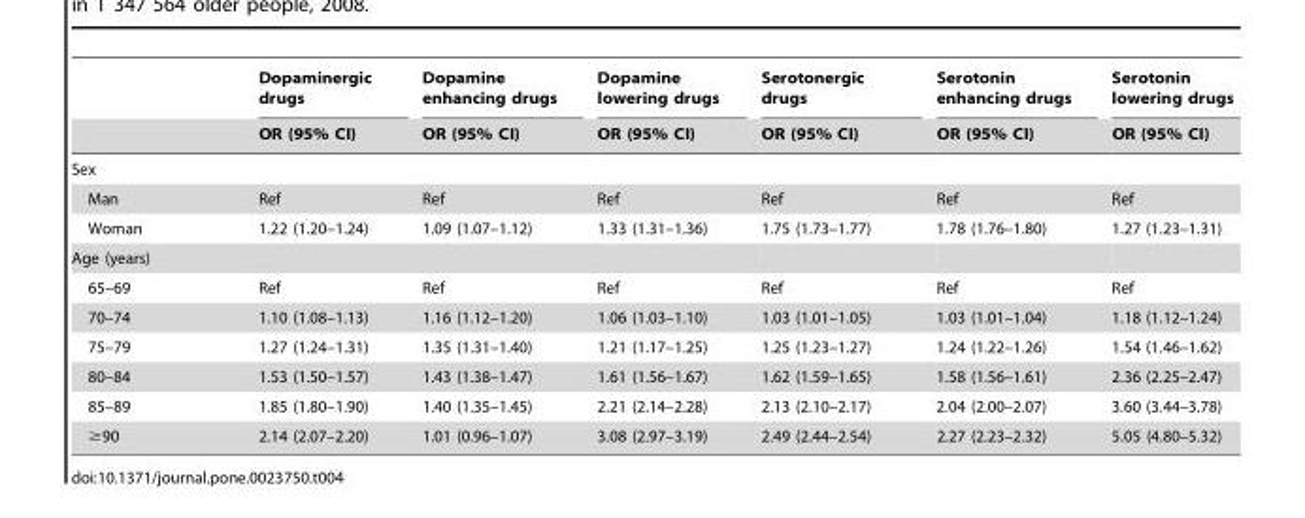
<table><thead><tr><td rowspan="2"></td><td rowspan="2">Dopaminergic drugs OR (95% CI)</td><td rowspan="2">Dopamine enhancing drugs OR (95% CI)</td><td rowspan="2">Dopamine lowering drugs OR (95% CI)</td><td rowspan="2">Serotonergic drugs OR (95% CI)</td><td rowspan="2">Serotonin enhancing drugs OR (95% CI)</td><td rowspan="2">Serotonin lowering drugs OR (95% CI)</td></tr><tr></tr></thead><tbody><tr><td colspan="7">Sex</td></tr><tr><td>Man</td><td>Ref</td><td>Ref</td><td>Ref</td><td>Ref</td><td>Ref</td><td>Ref</td></tr><tr><td>Woman</td><td>1.22 (1.20–1.24)</td><td>1.09 (1.07–1.12)</td><td>1.33 (1.31–1.36)</td><td>1.75 (1.73–1.77)</td><td>1.78 (1.76–1.80)</td><td>1.27 (1.23–1.31)</td></tr><tr><td colspan="7">Age (years)</td></tr><tr><td>65–69</td><td>Ref</td><td>Ref</td><td>Ref</td><td>Ref</td><td>Ref</td><td>Ref</td></tr><tr><td>70–74</td><td>1.10 (1.08–1.13)</td><td>1.16 (1.12–1.20)</td><td>1.06 (1.03–1.10)</td><td>1.03 (1.01–1.05)</td><td>1.03 (1.01–1.04)</td><td>1.18 (1.12–1.24)</td></tr><tr><td>75–79</td><td>1.27 (1.24–1.31)</td><td>1.35 (1.31–1.40)</td><td>1.21 (1.17–1.25)</td><td>1.25 (1.23–1.27)</td><td>1.24 (1.22–1.26)</td><td>1.54 (1.46–1.62)</td></tr><tr><td>80–84</td><td>1.53 (1.50–1.57)</td><td>1.43 (1.38–1.47)</td><td>1.61 (1.56–1.67)</td><td>1.62 (1.59–1.65)</td><td>1.58 (1.56–1.61)</td><td>2.36 (2.25–2.47)</td></tr><tr><td>85–89</td><td>1.85 (1.80–1.90)</td><td>1.40 (1.35–1.45)</td><td>2.21 (2.14–2.28)</td><td>2.13 (2.10–2.17)</td><td>2.04 (2.00–2.07)</td><td>3.60 (3.44–3.78)</td></tr><tr><td>≥90</td><td>2.14 (2.07–2.20)</td><td>1.01 (0.96–1.07)</td><td>3.08 (2.97–3.19)</td><td>2.49 (2.44–2.54)</td><td>2.27 (2.23–2.32)</td><td>5.05 (4.80–5.32)</td></tr></tbody></table>